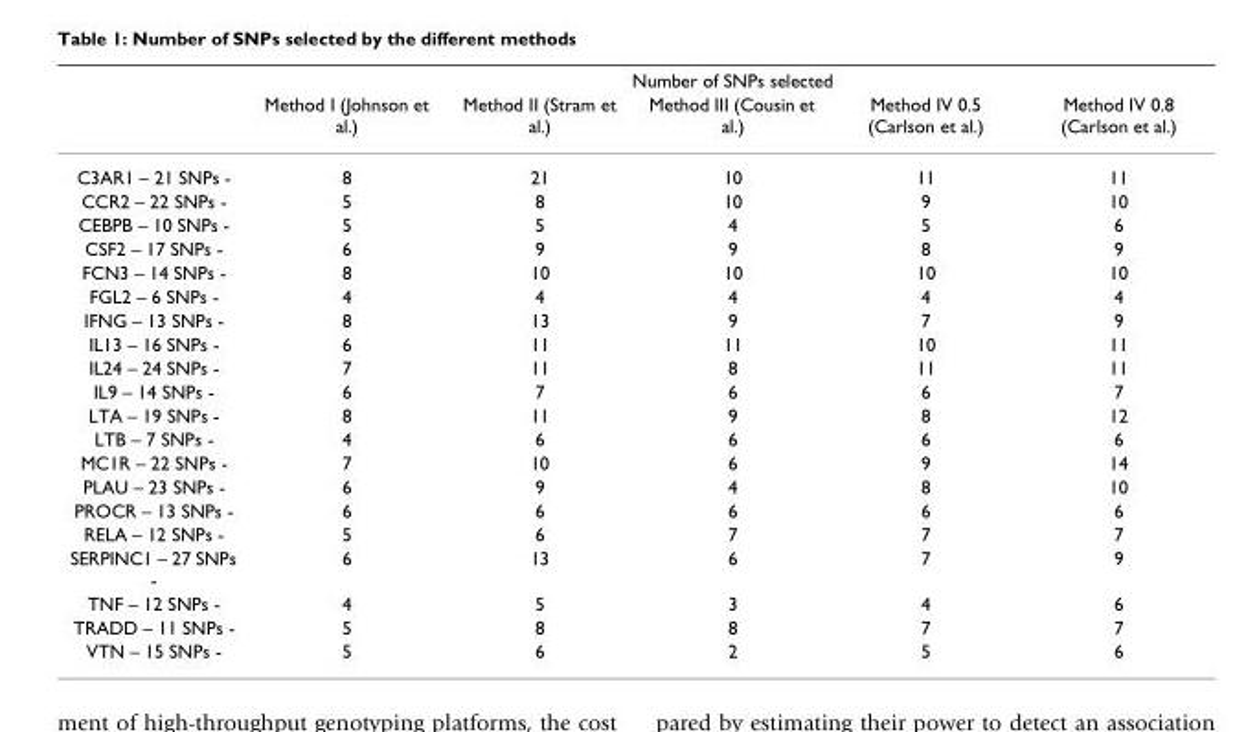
<table><thead><tr><td rowspan="2"></td><td colspan="5">Number of SNPs selected</td></tr><tr><td>Method I (Johnson et al.)</td><td>Method II (Stram et al.)</td><td>Method III (Cousin et al.)</td><td>Method IV 0.5 (Carlson et al.)</td><td>Method IV 0.8 (Carlson et al.)</td></tr></thead><tbody><tr><td>C3AR1 – 21 SNPs -</td><td>8</td><td>21</td><td>10</td><td>11</td><td>11</td></tr><tr><td>CCR2 – 22 SNPs -</td><td>5</td><td>8</td><td>10</td><td>9</td><td>10</td></tr><tr><td>CEBPB – 10 SNPs -</td><td>5</td><td>5</td><td>4</td><td>5</td><td>6</td></tr><tr><td>CSF2 – 17 SNPs -</td><td>6</td><td>9</td><td>9</td><td>8</td><td>9</td></tr><tr><td>FCN3 – 14 SNPs -</td><td>8</td><td>10</td><td>10</td><td>10</td><td>10</td></tr><tr><td>FGL2 – 6 SNPs -</td><td>4</td><td>4</td><td>4</td><td>4</td><td>4</td></tr><tr><td>IFNG – 13 SNPs -</td><td>8</td><td>13</td><td>9</td><td>7</td><td>9</td></tr><tr><td>IL13 – 16 SNPs -</td><td>6</td><td>11</td><td>11</td><td>10</td><td>11</td></tr><tr><td>IL24 – 24 SNPs -</td><td>7</td><td>11</td><td>8</td><td>11</td><td>11</td></tr><tr><td>IL9 – 14 SNPs -</td><td>6</td><td>7</td><td>6</td><td>6</td><td>7</td></tr><tr><td>LTA – 19 SNPs -</td><td>8</td><td>11</td><td>9</td><td>8</td><td>12</td></tr><tr><td>LTB – 7 SNPs -</td><td>4</td><td>6</td><td>6</td><td>6</td><td>6</td></tr><tr><td>MC1R – 22 SNPs -</td><td>7</td><td>10</td><td>6</td><td>9</td><td>14</td></tr><tr><td>PLAU – 23 SNPs -</td><td>6</td><td>9</td><td>4</td><td>8</td><td>10</td></tr><tr><td>PROCR – 13 SNPs -</td><td>6</td><td>6</td><td>6</td><td>6</td><td>6</td></tr><tr><td>RELA – 12 SNPs -</td><td>5</td><td>6</td><td>7</td><td>7</td><td>7</td></tr><tr><td>SERPINC1 – 27 SNPs -</td><td>6</td><td>13</td><td>6</td><td>7</td><td>9</td></tr><tr><td>TNF – 12 SNPs -</td><td>4</td><td>5</td><td>3</td><td>4</td><td>6</td></tr><tr><td>TRADD – 11 SNPs -</td><td>5</td><td>8</td><td>8</td><td>7</td><td>7</td></tr><tr><td>VTN – 15 SNPs -</td><td>5</td><td>6</td><td>2</td><td>5</td><td>6</td></tr></tbody></table>